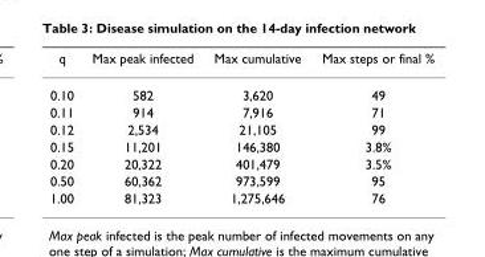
<table><thead><tr><td>q</td><td>Max peak infected</td><td>Max cumulative</td><td>Max steps or final %</td></tr></thead><tbody><tr><td>0.10</td><td>582</td><td>3,620</td><td>49</td></tr><tr><td>0.11</td><td>914</td><td>7,916</td><td>71</td></tr><tr><td>0.12</td><td>2,534</td><td>21,105</td><td>99</td></tr><tr><td>0.15</td><td>11,201</td><td>146,380</td><td>3.8%</td></tr><tr><td>0.20</td><td>20,322</td><td>401,479</td><td>3.5%</td></tr><tr><td>0.50</td><td>60,362</td><td>973,599</td><td>95</td></tr><tr><td>1.00</td><td>81,323</td><td>1,275,646</td><td>76</td></tr></tbody></table>